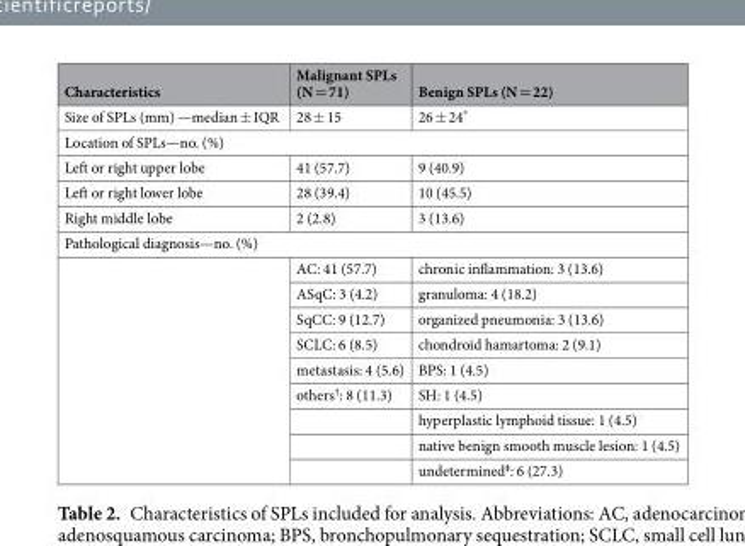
<table><thead><tr><td>Characteristics</td><td>Malignant SPLs (N = 71)</td><td>Benign SPLs (N = 22)</td></tr></thead><tbody><tr><td>Size of SPLs (mm) —median ± IQR</td><td>28 ± 15</td><td>26 ± 24*</td></tr><tr><td colspan="3">Location of SPLs—no. (%)</td></tr><tr><td>Left or right upper lobe</td><td>41 (57.7)</td><td>9 (40.9)</td></tr><tr><td>Left or right lower lobe</td><td>28 (39.4)</td><td>10 (45.5)</td></tr><tr><td>Right middle lobe</td><td>2 (2.8)</td><td>3 (13.6)</td></tr><tr><td colspan="3">Pathological diagnosis—no. (%)</td></tr><tr><td rowspan="9"></td><td>AC: 41 (57.7)</td><td>chronic inflammation: 3 (13.6)</td></tr><tr><td>ASqC: 3 (4.2)</td><td>granuloma: 4 (18.2)</td></tr><tr><td>SqCC: 9 (12.7)</td><td>organized pneumonia: 3 (13.6)</td></tr><tr><td>SCLC: 6 (8.5)</td><td>chondroid hamartoma: 2 (9.1)</td></tr><tr><td>metastasis: 4 (5.6)</td><td>BPS: 1 (4.5)</td></tr><tr><td>others<sup>†</sup>: 8 (11.3)</td><td>SH: 1 (4.5)</td></tr><tr><td></td><td>hyperplastic lymphoid tissue: 1 (4.5)</td></tr><tr><td></td><td>native benign smooth muscle lesion: 1 (4.5)</td></tr><tr><td></td><td>undetermined<sup>‡</sup>: 6 (27.3)</td></tr></tbody></table>